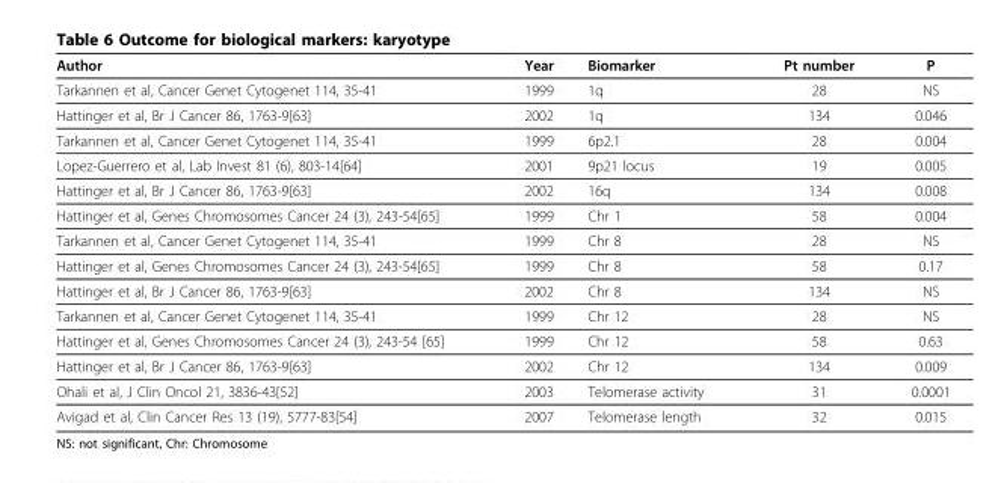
<table><thead><tr><td>Author</td><td>Year</td><td>Biomarker</td><td>Pt number</td><td>P</td></tr></thead><tbody><tr><td>Tarkannen et al, Cancer Genet Cytogenet 114, 35-41</td><td>1999</td><td>1q</td><td>28</td><td>NS</td></tr><tr><td>Hattinger et al, Br J Cancer 86, 1763-9[63]</td><td>2002</td><td>1q</td><td>134</td><td>0.046</td></tr><tr><td>Tarkannen et al, Cancer Genet Cytogenet 114, 35-41</td><td>1999</td><td>6p2.1</td><td>28</td><td>0.004</td></tr><tr><td>Lopez-Guerrero et al, Lab Invest 81 (6), 803-14[64]</td><td>2001</td><td>9p21 locus</td><td>19</td><td>0.005</td></tr><tr><td>Hattinger et al, Br J Cancer 86, 1763-9[63]</td><td>2002</td><td>16q</td><td>134</td><td>0.008</td></tr><tr><td>Hattinger et al, Genes Chromosomes Cancer 24 (3), 243-54[65]</td><td>1999</td><td>Chr 1</td><td>58</td><td>0.004</td></tr><tr><td>Tarkannen et al, Cancer Genet Cytogenet 114, 35-41</td><td>1999</td><td>Chr 8</td><td>28</td><td>NS</td></tr><tr><td>Hattinger et al, Genes Chromosomes Cancer 24 (3), 243-54[65]</td><td>1999</td><td>Chr 8</td><td>58</td><td>0.17</td></tr><tr><td>Hattinger et al, Br J Cancer 86, 1763-9[63]</td><td>2002</td><td>Chr 8</td><td>134</td><td>NS</td></tr><tr><td>Tarkannen et al, Cancer Genet Cytogenet 114, 35-41</td><td>1999</td><td>Chr 12</td><td>28</td><td>NS</td></tr><tr><td>Hattinger et al, Genes Chromosomes Cancer 24 (3), 243-54 [65]</td><td>1999</td><td>Chr 12</td><td>58</td><td>0.63</td></tr><tr><td>Hattinger et al, Br J Cancer 86, 1763-9[63]</td><td>2002</td><td>Chr 12</td><td>134</td><td>0.009</td></tr><tr><td>Ohali et al, J Clin Oncol 21, 3836-43[52]</td><td>2003</td><td>Telomerase activity</td><td>31</td><td>0.0001</td></tr><tr><td>Avigad et al, Clin Cancer Res 13 (19), 5777-83[54]</td><td>2007</td><td>Telomerase length</td><td>32</td><td>0.015</td></tr></tbody></table>